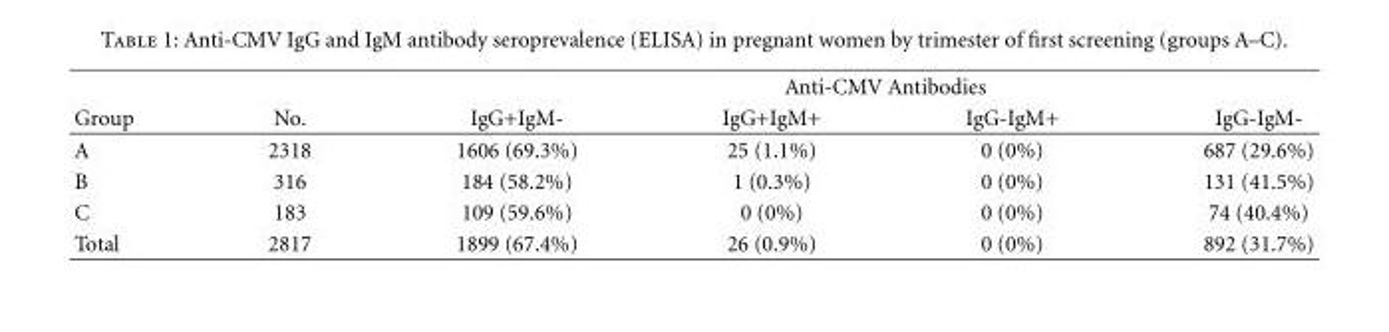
<table><thead><tr><td rowspan="2">Group</td><td rowspan="2">No.</td><td colspan="4">Anti-CMV Antibodies</td></tr><tr><td>IgG+IgM-</td><td>IgG+IgM+</td><td>IgG-IgM+</td><td>IgG-IgM-</td></tr></thead><tbody><tr><td>A</td><td>2318</td><td>1606 (69.3%)</td><td>25 (1.1%)</td><td>0 (0%)</td><td>687 (29.6%)</td></tr><tr><td>B</td><td>316</td><td>184 (58.2%)</td><td>1 (0.3%)</td><td>0 (0%)</td><td>131 (41.5%)</td></tr><tr><td>C</td><td>183</td><td>109 (59.6%)</td><td>0 (0%)</td><td>0 (0%)</td><td>74 (40.4%)</td></tr><tr><td>Total</td><td>2817</td><td>1899 (67.4%)</td><td>26 (0.9%)</td><td>0 (0%)</td><td>892 (31.7%)</td></tr></tbody></table>